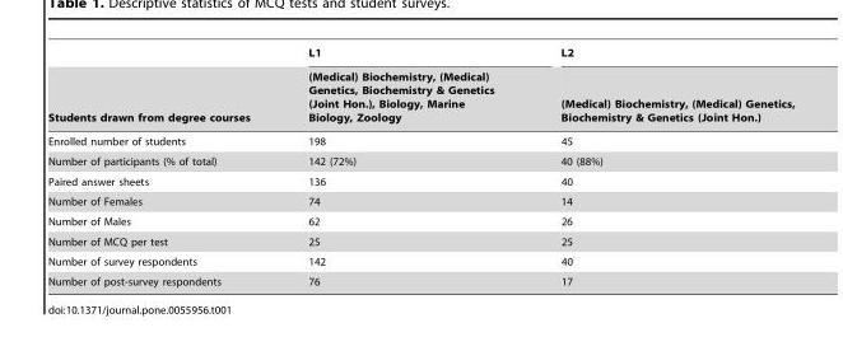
<table><thead><tr><td rowspan="2">Students drawn from degree courses</td><td rowspan="2">L1 (Medical) Biochemistry, (Medical) Genetics, Biochemistry &amp; Genetics (Joint Hon.), Biology, Marine Biology, Zoology</td><td rowspan="2">L2 (Medical) Biochemistry, (Medical) Genetics, Biochemistry &amp; Genetics (Joint Hon.)</td></tr><tr></tr></thead><tbody><tr><td>Enrolled number of students</td><td>198</td><td>45</td></tr><tr><td>Number of participants (% of total)</td><td>142 (72%)</td><td>40 (88%)</td></tr><tr><td>Paired answer sheets</td><td>136</td><td>40</td></tr><tr><td>Number of Females</td><td>74</td><td>14</td></tr><tr><td>Number of Males</td><td>62</td><td>26</td></tr><tr><td>Number of MCQ per test</td><td>25</td><td>25</td></tr><tr><td>Number of survey respondents</td><td>142</td><td>40</td></tr><tr><td>Number of post-survey respondents</td><td>76</td><td>17</td></tr></tbody></table>